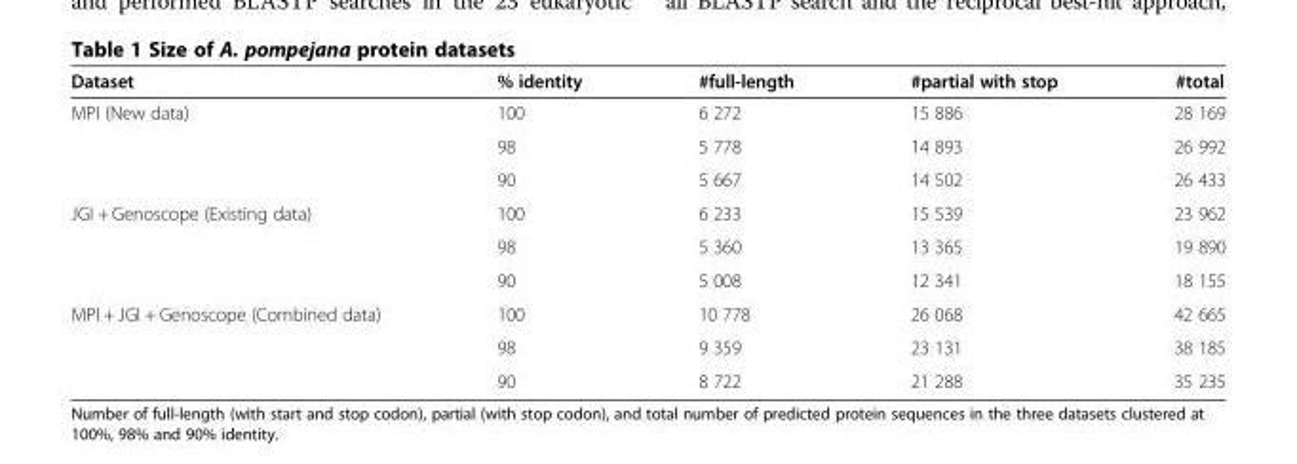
<table><thead><tr><td>Dataset</td><td>% identity</td><td>#full-length</td><td>#partial with stop</td><td>#total</td></tr></thead><tbody><tr><td rowspan="3">MPI (New data)</td><td>100</td><td>6 272</td><td>15 886</td><td>28 169</td></tr><tr><td>98</td><td>5 778</td><td>14 893</td><td>26 992</td></tr><tr><td>90</td><td>5 667</td><td>14 502</td><td>26 433</td></tr><tr><td rowspan="3">JGI + Genoscope (Existing data)</td><td>100</td><td>6 233</td><td>15 539</td><td>23 962</td></tr><tr><td>98</td><td>5 360</td><td>13 365</td><td>19 890</td></tr><tr><td>90</td><td>5 008</td><td>12 341</td><td>18 155</td></tr><tr><td rowspan="3">MPI + JGI + Genoscope (Combined data)</td><td>100</td><td>10 778</td><td>26 068</td><td>42 665</td></tr><tr><td>98</td><td>9 359</td><td>23 131</td><td>38 185</td></tr><tr><td>90</td><td>8 722</td><td>21 288</td><td>35 235</td></tr></tbody></table>